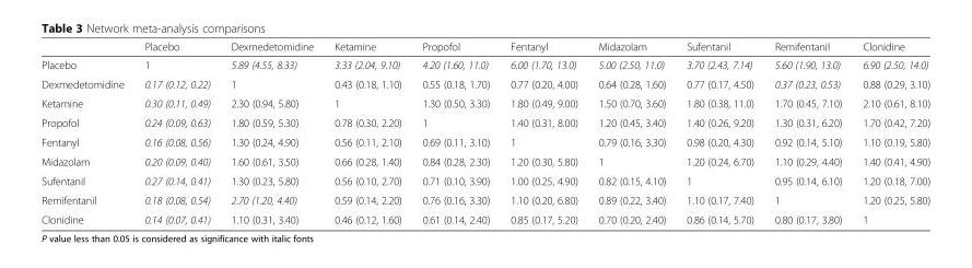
<table><thead><tr><td></td><td>Placebo</td><td>Dexmedetomidine</td><td>Ketamine</td><td>Propofol</td><td>Fentanyl</td><td>Midazolam</td><td>Sufentanil</td><td>Remifentanil</td><td>Clonidine</td></tr></thead><tbody><tr><td>Placebo</td><td>1</td><td>5.89 (4.55, 8.33)</td><td>3.33 (2.04, 9.10)</td><td>4.20 (1.60, 11.0)</td><td>6.00 (1.70, 13.0)</td><td>5.00 (2.50, 11.0)</td><td>3.70 (2.43, 7.14)</td><td>5.60 (1.90, 13.0)</td><td>6.90 (2.50, 14.0)</td></tr><tr><td>Dexmedetomidine</td><td>0.17 (0.12, 0.22)</td><td>1</td><td>0.43 (0.18, 1.10)</td><td>0.55 (0.18, 1.70)</td><td>0.77 (0.20, 4.00)</td><td>0.64 (0.28, 1.60)</td><td>0.77 (0.17, 4.50)</td><td>0.37 (0.23, 0.53)</td><td>0.88 (0.29, 3.10)</td></tr><tr><td>Ketamine</td><td>0.30 (0.11, 0.49)</td><td>2.30 (0.94, 5.80)</td><td>1</td><td>1.30 (0.50, 3.30)</td><td>1.80 (0.49, 9.00)</td><td>1.50 (0.70, 3.60)</td><td>1.80 (0.38, 11.0)</td><td>1.70 (0.45, 7.10)</td><td>2.10 (0.61, 8.10)</td></tr><tr><td>Propofol</td><td>0.24 (0.09, 0.63)</td><td>1.80 (0.59, 5.30)</td><td>0.78 (0.30, 2.20)</td><td>1</td><td>1.40 (0.31, 8.00)</td><td>1.20 (0.45, 3.40)</td><td>1.40 (0.26, 9.20)</td><td>1.30 (0.31, 6.20)</td><td>1.70 (0.42, 7.20)</td></tr><tr><td>Fentanyl</td><td>0.16 (0.08, 0.56)</td><td>1.30 (0.24, 4.90)</td><td>0.56 (0.11, 2.10)</td><td>0.69 (0.11, 3.10)</td><td>1</td><td>0.79 (0.16, 3.30)</td><td>0.98 (0.20, 4.30)</td><td>0.92 (0.14, 5.10)</td><td>1.10 (0.19, 5.80)</td></tr><tr><td>Midazolam</td><td>0.20 (0.09, 0.40)</td><td>1.60 (0.61, 3.50)</td><td>0.66 (0.28, 1.40)</td><td>0.84 (0.28, 2.30)</td><td>1.20 (0.30, 5.80)</td><td>1</td><td>1.20 (0.24, 6.70)</td><td>1.10 (0.29, 4.40)</td><td>1.40 (0.41, 4.90)</td></tr><tr><td>Sufentanil</td><td>0.27 (0.14, 0.41)</td><td>1.30 (0.23, 5.80)</td><td>0.56 (0.10, 2.70)</td><td>0.71 (0.10, 3.90)</td><td>1.00 (0.25, 4.90)</td><td>0.82 (0.15, 4.10)</td><td>1</td><td>0.95 (0.14, 6.10)</td><td>1.20 (0.18, 7.00)</td></tr><tr><td>Remifentanil</td><td>0.18 (0.08, 0.54)</td><td>2.70 (1.20, 4.40)</td><td>0.59 (0.14, 2.20)</td><td>0.76 (0.16, 3.30)</td><td>1.10 (0.20, 6.80)</td><td>0.89 (0.22, 3.40)</td><td>1.10 (0.17, 7.40)</td><td>1</td><td>1.20 (0.25, 5.80)</td></tr><tr><td>Clonidine</td><td>0.14 (0.07, 0.41)</td><td>1.10 (0.31, 3.40)</td><td>0.46 (0.12, 1.60)</td><td>0.61 (0.14, 2.40)</td><td>0.85 (0.17, 5.20)</td><td>0.70 (0.20, 2.40)</td><td>0.86 (0.14, 5.70)</td><td>0.80 (0.17, 3.80)</td><td>1</td></tr></tbody></table>